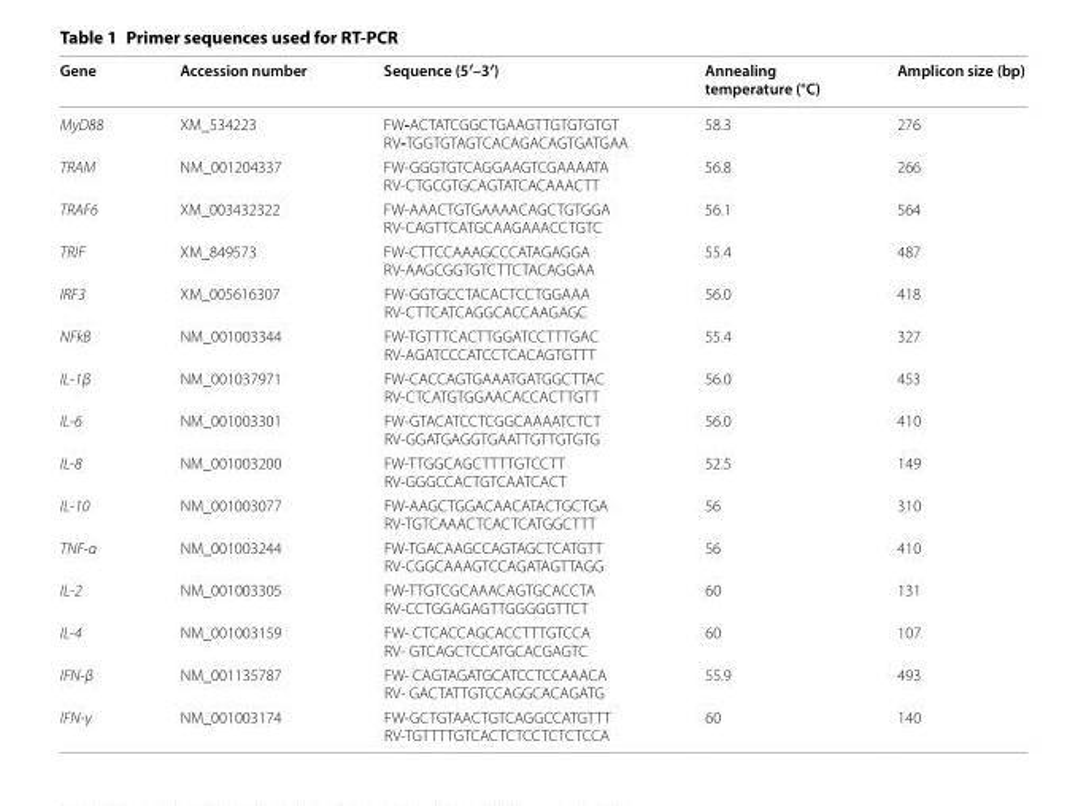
<table><thead><tr><td>Gene</td><td>Accession number</td><td>Sequence (5′–3′)</td><td>Annealing temperature (°C)</td><td>Amplicon size (bp)</td></tr></thead><tbody><tr><td>MyD88</td><td>XM_534223</td><td>FW-ACTATCGGCTGAAGTTGTGTGTGT RV-TGGTGTAGTCACAGACAGTGATGAA</td><td>58.3</td><td>276</td></tr><tr><td>TRAM</td><td>NM_001204337</td><td>FW‑GGGTGTCAGGAAGTCGAAAATA RV‑CTGCGTGCAGTATCACAAACTT</td><td>56.8</td><td>266</td></tr><tr><td>TRAF6</td><td>XM_003432322</td><td>FW‑AAACTGTGAAAACAGCTGTGGA RV‑CAGTTCATGCAAGAAACCTGTC</td><td>56.1</td><td>564</td></tr><tr><td>TRIF</td><td>XM_849573</td><td>FW‑CTTCCAAAGCCCATAGAGGA RV‑AAGCGGTGTCTTCTACAGGAA</td><td>55.4</td><td>487</td></tr><tr><td>IRF3</td><td>XM_005616307</td><td>FW‑GGTGCCTACACTCCTGGAAA RV‑CTTCATCAGGCACCAAGAGC</td><td>56.0</td><td>418</td></tr><tr><td>NFkB</td><td>NM_001003344</td><td>FW‑TGTTTCACTTGGATCCTTTGAC RV‑AGATCCCATCCTCACAGTGTTT</td><td>55.4</td><td>327</td></tr><tr><td>IL‑1β</td><td>NM_001037971</td><td>FW‑CACCAGTGAAATGATGGCTTAC RV‑CTCATGTGGAACACCACTTGTT</td><td>56.0</td><td>453</td></tr><tr><td>IL‑6</td><td>NM_001003301</td><td>FW‑GTACATCCTCGGCAAAATCTCT RV‑GGATGAGGTGAATTGTTGTGTG</td><td>56.0</td><td>410</td></tr><tr><td>IL‑8</td><td>NM_001003200</td><td>FW‑TTGGCAGCTTTTGTCCTT RV‑GGGCCACTGTCAATCACT</td><td>52.5</td><td>149</td></tr><tr><td>IL‑10</td><td>NM_001003077</td><td>FW‑AAGCTGGACAACATACTGCTGA RV‑TGTCAAACTCACTCATGGCTTT</td><td>56</td><td>310</td></tr><tr><td>TNF‑α</td><td>NM_001003244</td><td>FW‑TGACAAGCCAGTAGCTCATGTT RV‑CGGCAAAGTCCAGATAGTTAGG</td><td>56</td><td>410</td></tr><tr><td>IL‑2</td><td>NM_001003305</td><td>FW‑TTGTCGCAAACAGTGCACCTA RV‑CCTGGAGAGTTGGGGGTTCT</td><td>60</td><td>131</td></tr><tr><td>IL‑4</td><td>NM_001003159</td><td>FW‑ CTCACCAGCACCTTTGTCCA RV‑ GTCAGCTCCATGCACGAGTC</td><td>60</td><td>107</td></tr><tr><td>IFN‑β</td><td>NM_001135787</td><td>FW‑ CAGTAGATGCATCCTCCAAACA RV‑ GACTATTGTCCAGGCACAGATG</td><td>55.9</td><td>493</td></tr><tr><td>IFN‑γ</td><td>NM_001003174</td><td>FW‑GCTGTAACTGTCAGGCCATGTTT RV‑TGTTTTGTCACTCTCCTCTCTCCA</td><td>60</td><td>140</td></tr></tbody></table>